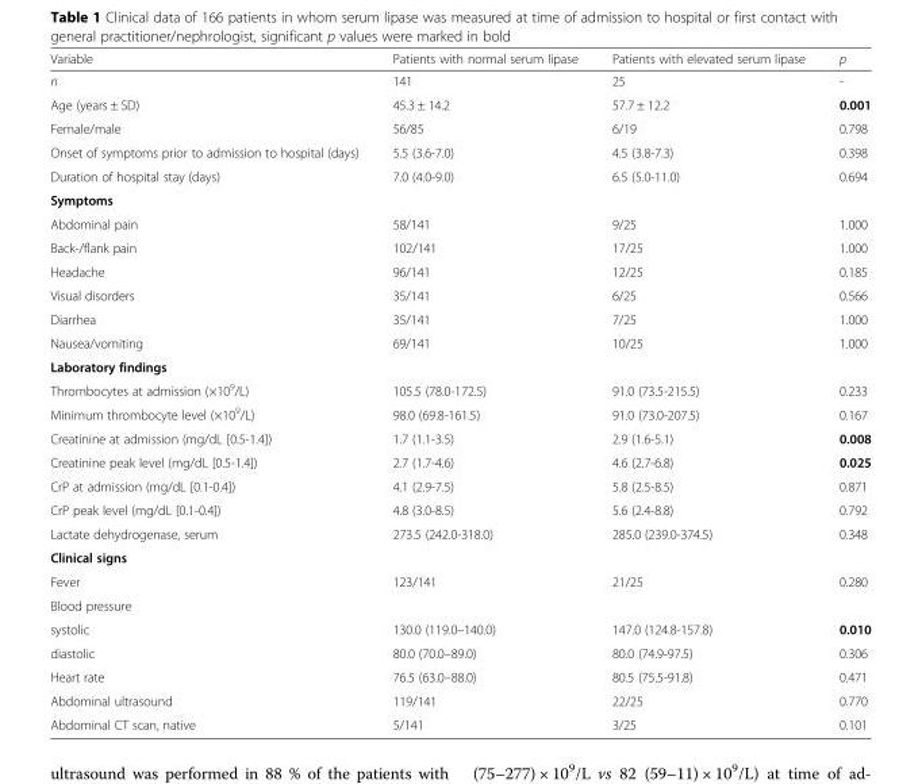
<table><thead><tr><td>Variable</td><td>Patients with normal serum lipase</td><td>Patients with elevated serum lipase</td><td>p</td></tr></thead><tbody><tr><td>n</td><td>141</td><td>25</td><td>-</td></tr><tr><td>Age (years ± SD)</td><td>45.3 ± 14.2</td><td>57.7 ± 12.2</td><td>0.001</td></tr><tr><td>Female/male</td><td>56/85</td><td>6/19</td><td>0.798</td></tr><tr><td>Onset of symptoms prior to admission to hospital (days)</td><td>5.5 (3.6-7.0)</td><td>4.5 (3.8-7.3)</td><td>0.398</td></tr><tr><td>Duration of hospital stay (days)</td><td>7.0 (4.0-9.0)</td><td>6.5 (5.0-11.0)</td><td>0.694</td></tr><tr><td colspan="4">Symptoms</td></tr><tr><td>Abdominal pain</td><td>58/141</td><td>9/25</td><td>1.000</td></tr><tr><td>Back-/flank pain</td><td>102/141</td><td>17/25</td><td>1.000</td></tr><tr><td>Headache</td><td>96/141</td><td>12/25</td><td>0.185</td></tr><tr><td>Visual disorders</td><td>35/141</td><td>6/25</td><td>0.566</td></tr><tr><td>Diarrhea</td><td>35/141</td><td>7/25</td><td>1.000</td></tr><tr><td>Nausea/vomiting</td><td>69/141</td><td>10/25</td><td>1.000</td></tr><tr><td colspan="4">Laboratory findings</td></tr><tr><td>Thrombocytes at admission (×10<sup>9</sup>/L)</td><td>105.5 (78.0-172.5)</td><td>91.0 (73.5-215.5)</td><td>0.233</td></tr><tr><td>Minimum thrombocyte level (×10<sup>9</sup>/L)</td><td>98.0 (69.8-161.5)</td><td>91.0 (73.0-207.5)</td><td>0.167</td></tr><tr><td>Creatinine at admission (mg/dL [0.5-1.4])</td><td>1.7 (1.1-3.5)</td><td>2.9 (1.6-5.1)</td><td>0.008</td></tr><tr><td>Creatinine peak level (mg/dL [0.5-1.4])</td><td>2.7 (1.7-4.6)</td><td>4.6 (2.7-6.8)</td><td>0.025</td></tr><tr><td>CrP at admission (mg/dL [0.1-0.4])</td><td>4.1 (2.9-7.5)</td><td>5.8 (2.5-8.5)</td><td>0.871</td></tr><tr><td>CrP peak level (mg/dL [0.1-0.4])</td><td>4.8 (3.0-8.5)</td><td>5.6 (2.4-8.8)</td><td>0.792</td></tr><tr><td>Lactate dehydrogenase, serum</td><td>273.5 (242.0-318.0)</td><td>285.0 (239.0-374.5)</td><td>0.348</td></tr><tr><td colspan="4">Clinical signs</td></tr><tr><td>Fever</td><td>123/141</td><td>21/25</td><td>0.280</td></tr><tr><td colspan="4">Blood pressure</td></tr><tr><td>systolic</td><td>130.0 (119.0–140.0)</td><td>147.0 (124.8-157.8)</td><td>0.010</td></tr><tr><td>diastolic</td><td>80.0 (70.0–89.0)</td><td>80.0 (74.9-97.5)</td><td>0.306</td></tr><tr><td>Heart rate</td><td>76.5 (63.0–88.0)</td><td>80.5 (75.5-91.8)</td><td>0.471</td></tr><tr><td>Abdominal ultrasound</td><td>119/141</td><td>22/25</td><td>0.770</td></tr><tr><td>Abdominal CT scan, native</td><td>5/141</td><td>3/25</td><td>0.101</td></tr></tbody></table>